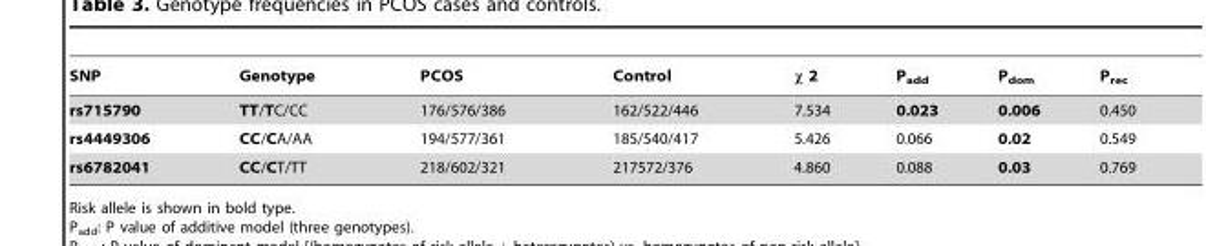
<table><thead><tr><td>SNP</td><td>Genotype</td><td>PCOS</td><td>Control</td><td>x 2</td><td>P<sub>add</sub></td><td>P<sub>dom</sub></td><td>P<sub>rec</sub></td></tr></thead><tbody><tr><td>rs715790</td><td>TT/TC/CC</td><td>176/576/386</td><td>162/522/446</td><td>7.534</td><td>0.023</td><td>0.006</td><td>0.450</td></tr><tr><td>rs4449306</td><td>CC/CA/AA</td><td>194/577/361</td><td>185/540/417</td><td>5.426</td><td>0.066</td><td>0.02</td><td>0.549</td></tr><tr><td>rs6782041</td><td>CC/CT/TT</td><td>218/602/321</td><td>217572/376</td><td>4.860</td><td>0.088</td><td>0.03</td><td>0.769</td></tr></tbody></table>